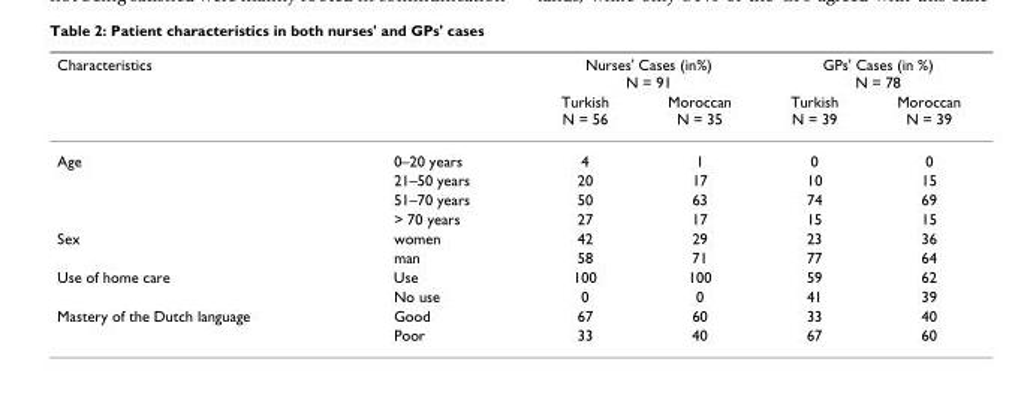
<table><thead><tr><td rowspan="2">Characteristics</td><td rowspan="2"></td><td colspan="2">Nurses&#x27; Cases (in%) N = 91</td><td colspan="2">GPs&#x27; Cases (in %) N = 78</td></tr><tr><td>Turkish N = 56</td><td>Moroccan N = 35</td><td>Turkish N = 39</td><td>Moroccan N = 39</td></tr></thead><tbody><tr><td rowspan="4">Age</td><td>0–20 years</td><td>4</td><td>1</td><td>0</td><td>0</td></tr><tr><td>21–50 years</td><td>20</td><td>17</td><td>10</td><td>15</td></tr><tr><td>51–70 years</td><td>50</td><td>63</td><td>74</td><td>69</td></tr><tr><td>&gt; 70 years</td><td>27</td><td>17</td><td>15</td><td>15</td></tr><tr><td rowspan="2">Sex</td><td>women</td><td>42</td><td>29</td><td>23</td><td>36</td></tr><tr><td>man</td><td>58</td><td>71</td><td>77</td><td>64</td></tr><tr><td rowspan="2">Use of home care</td><td>Use</td><td>100</td><td>100</td><td>59</td><td>62</td></tr><tr><td>No use</td><td>0</td><td>0</td><td>41</td><td>39</td></tr><tr><td rowspan="2">Mastery of the Dutch language</td><td>Good</td><td>67</td><td>60</td><td>33</td><td>40</td></tr><tr><td>Poor</td><td>33</td><td>40</td><td>67</td><td>60</td></tr></tbody></table>